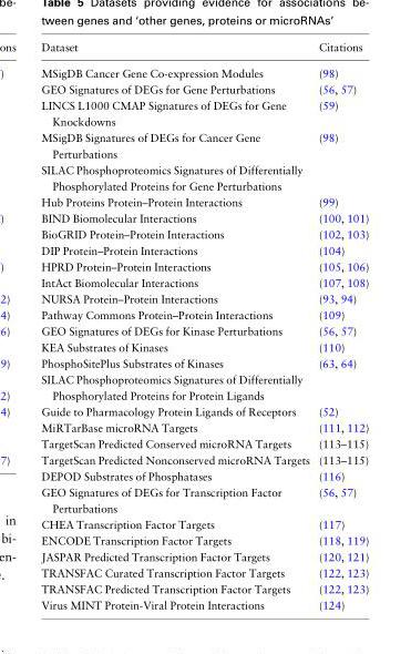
<table><thead><tr><td>Dataset</td><td>Citations</td></tr></thead><tbody><tr><td>MSigDB Cancer Gene Co-expression Modules</td><td>(98)</td></tr><tr><td>GEO Signatures of DEGs for Gene Perturbations</td><td>(56, 57)</td></tr><tr><td>LINCS L1000 CMAP Signatures of DEGs for Gene Knockdowns</td><td>(59)</td></tr><tr><td>MSigDB Signatures of DEGs for Cancer Gene Perturbations</td><td>(98)</td></tr><tr><td colspan="2">SILAC Phosphoproteomics Signatures of Differentially Phosphorylated Proteins for Gene Perturbations</td></tr><tr><td>Hub Proteins Protein–Protein Interactions</td><td>(99)</td></tr><tr><td>BIND Biomolecular Interactions</td><td>(100, 101)</td></tr><tr><td>BioGRID Protein–Protein Interactions</td><td>(102, 103)</td></tr><tr><td>DIP Protein–Protein Interactions</td><td>(104)</td></tr><tr><td>HPRD Protein–Protein Interactions</td><td>(105, 106)</td></tr><tr><td>IntAct Biomolecular Interactions</td><td>(107, 108)</td></tr><tr><td>NURSA Protein–Protein Interactions</td><td>(93, 94)</td></tr><tr><td>Pathway Commons Protein–Protein Interactions</td><td>(109)</td></tr><tr><td>GEO Signatures of DEGs for Kinase Perturbations</td><td>(56, 57)</td></tr><tr><td>KEA Substrates of Kinases</td><td>(110)</td></tr><tr><td>PhosphoSitePlus Substrates of Kinases</td><td>(63, 64)</td></tr><tr><td colspan="2">SILAC Phosphoproteomics Signatures of Differentially Phosphorylated Proteins for Protein Ligands</td></tr><tr><td>Guide to Pharmacology Protein Ligands of Receptors</td><td>(52)</td></tr><tr><td>MiRTarBase microRNA Targets</td><td>(111, 112)</td></tr><tr><td>TargetScan Predicted Conserved microRNA Targets</td><td>(113–115)</td></tr><tr><td>TargetScan Predicted Nonconserved microRNA Targets</td><td>(113–115)</td></tr><tr><td>DEPOD Substrates of Phosphatases</td><td>(116)</td></tr><tr><td>GEO Signatures of DEGs for Transcription Factor Perturbations</td><td>(56, 57)</td></tr><tr><td>CHEA Transcription Factor Targets</td><td>(117)</td></tr><tr><td>ENCODE Transcription Factor Targets</td><td>(118, 119)</td></tr><tr><td>JASPAR Predicted Transcription Factor Targets</td><td>(120, 121)</td></tr><tr><td>TRANSFAC Curated Transcription Factor Targets</td><td>(122, 123)</td></tr><tr><td>TRANSFAC Predicted Transcription Factor Targets</td><td>(122, 123)</td></tr><tr><td>Virus MINT Protein-Viral Protein Interactions</td><td>(124)</td></tr></tbody></table>